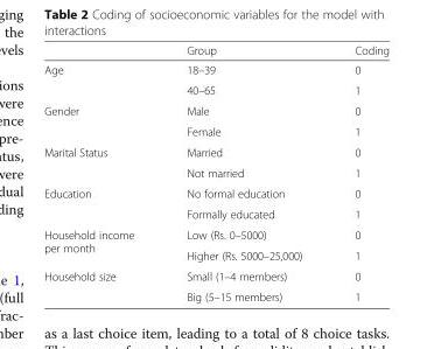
<table><thead><tr><td></td><td>Group</td><td>Coding</td></tr></thead><tbody><tr><td rowspan="2">Age</td><td>18–39</td><td>0</td></tr><tr><td>40–65</td><td>1</td></tr><tr><td rowspan="2">Gender</td><td>Male</td><td>0</td></tr><tr><td>Female</td><td>1</td></tr><tr><td rowspan="2">Marital Status</td><td>Married</td><td>0</td></tr><tr><td>Not married</td><td>1</td></tr><tr><td rowspan="2">Education</td><td>No formal education</td><td>0</td></tr><tr><td>Formally educated</td><td>1</td></tr><tr><td rowspan="2">Household income per month</td><td>Low (Rs. 0–5000)</td><td>0</td></tr><tr><td>Higher (Rs. 5000–25,000)</td><td>1</td></tr><tr><td rowspan="2">Household size</td><td>Small (1–4 members)</td><td>0</td></tr><tr><td>Big (5–15 members)</td><td>1</td></tr></tbody></table>